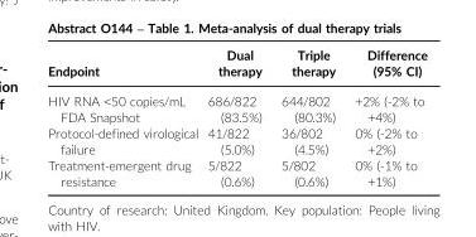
<table><thead><tr><td>Endpoint</td><td>Dual therapy</td><td>Triple therapy</td><td>Difference (95% CI)</td></tr></thead><tbody><tr><td>HIV RNA &lt;50 copies/mL FDA Snapshot</td><td>686/822 (83.5%)</td><td>644/802 (80.3%)</td><td>+2% (-2% to +4%)</td></tr><tr><td>Protocol-defined virological failure</td><td>41/822 (5.0%)</td><td>36/802 (4.5%)</td><td>0% (-2% to +2%)</td></tr><tr><td>Treatment-emergent drug resistance</td><td>5/822 (0.6%)</td><td>5/802 (0.6%)</td><td>0% (-1% to +1%)</td></tr></tbody></table>